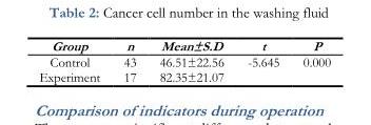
<table><thead><tr><td>Group</td><td>n</td><td>Mean±S.D</td><td>t</td><td>P</td></tr></thead><tbody><tr><td>Control</td><td>43</td><td>46.51±22.56</td><td>-5.645</td><td>0.000</td></tr><tr><td>Experiment</td><td>17</td><td>82.35±21.07</td><td></td><td></td></tr></tbody></table>